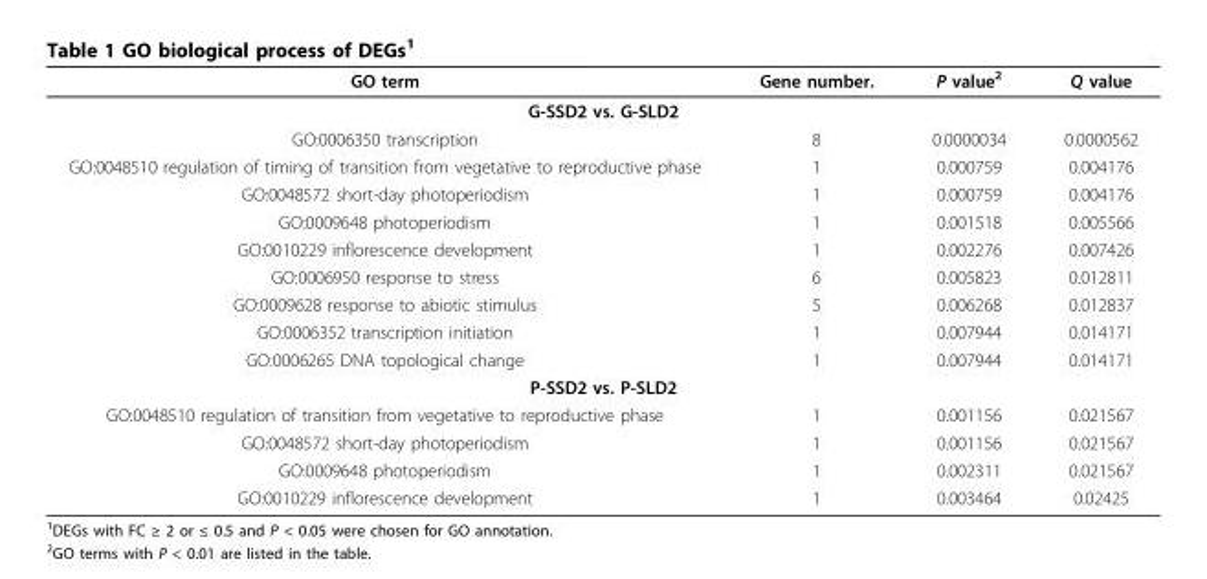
<table><thead><tr><td>GO term</td><td>Gene number.</td><td>P value<sup>2</sup></td><td>Q value</td></tr></thead><tbody><tr><td colspan="4">G-SSD2 vs. G-SLD2</td></tr><tr><td>GO:0006350 transcription</td><td>8</td><td>0.0000034</td><td>0.0000562</td></tr><tr><td>GO:0048510 regulation of timing of transition from vegetative to reproductive phase</td><td>1</td><td>0.000759</td><td>0.004176</td></tr><tr><td>GO:0048572 short-day photoperiodism</td><td>1</td><td>0.000759</td><td>0.004176</td></tr><tr><td>GO:0009648 photoperiodism</td><td>1</td><td>0.001518</td><td>0.005566</td></tr><tr><td>GO:0010229 inflorescence development</td><td>1</td><td>0.002276</td><td>0.007426</td></tr><tr><td>GO:0006950 response to stress</td><td>6</td><td>0.005823</td><td>0.012811</td></tr><tr><td>GO:0009628 response to abiotic stimulus</td><td>5</td><td>0.006268</td><td>0.012837</td></tr><tr><td>GO:0006352 transcription initiation</td><td>1</td><td>0.007944</td><td>0.014171</td></tr><tr><td>GO:0006265 DNA topological change</td><td>1</td><td>0.007944</td><td>0.014171</td></tr><tr><td colspan="4">P-SSD2 vs. P-SLD2</td></tr><tr><td>GO:0048510 regulation of transition from vegetative to reproductive phase</td><td>1</td><td>0.001156</td><td>0.021567</td></tr><tr><td>GO:0048572 short-day photoperiodism</td><td>1</td><td>0.001156</td><td>0.021567</td></tr><tr><td>GO:0009648 photoperiodism</td><td>1</td><td>0.002311</td><td>0.021567</td></tr><tr><td>GO:0010229 inflorescence development</td><td>1</td><td>0.003464</td><td>0.02425</td></tr></tbody></table>